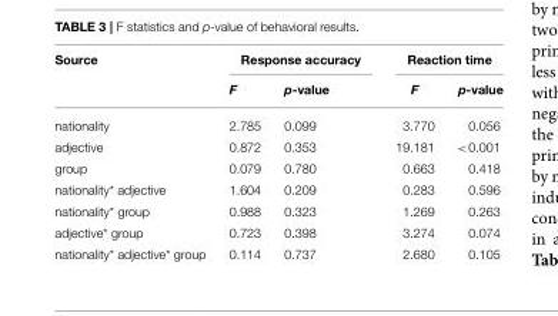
<table><thead><tr><td rowspan="2">Source</td><td colspan="2">Response accuracy</td><td colspan="2">Reaction time</td></tr><tr><td>F</td><td>p-value</td><td>F</td><td>p-value</td></tr></thead><tbody><tr><td>nationality</td><td>2.785</td><td>0.099</td><td>3.770</td><td>0.056</td></tr><tr><td>adjective</td><td>0.872</td><td>0.353</td><td>19.181</td><td>&lt;0.001</td></tr><tr><td>group</td><td>0.079</td><td>0.780</td><td>0.663</td><td>0.418</td></tr><tr><td>nationality* adjective</td><td>1.604</td><td>0.209</td><td>0.283</td><td>0.596</td></tr><tr><td>nationality* group</td><td>0.988</td><td>0.323</td><td>1.269</td><td>0.263</td></tr><tr><td>adjective* group</td><td>0.723</td><td>0.398</td><td>3.274</td><td>0.074</td></tr><tr><td>nationality* adjective* group</td><td>0.114</td><td>0.737</td><td>2.680</td><td>0.105</td></tr></tbody></table>